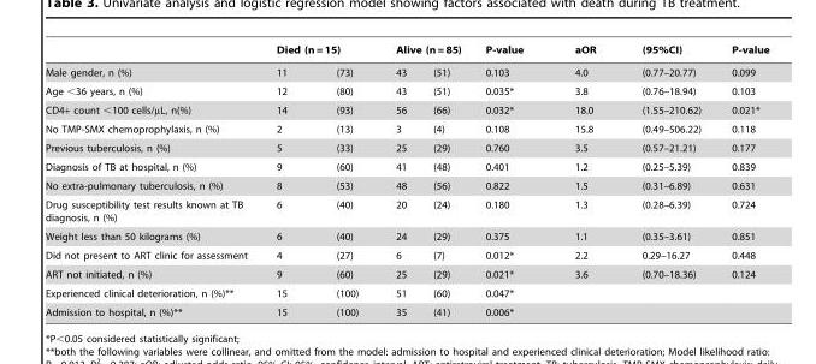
<table><thead><tr><td rowspan="2">Male gender, n (%)</td><td colspan="2">Died (n = 15)</td><td colspan="2">Alive (n = 85)</td><td rowspan="2">P-value 0.103</td><td rowspan="2">aOR 4.0</td><td rowspan="2">(95%CI) (0.77–20.77)</td><td rowspan="2">P-value 0.099</td></tr><tr><td>11</td><td>(73)</td><td>43</td><td>(51)</td></tr></thead><tbody><tr><td>Age &lt;36 years, n (%)</td><td>12</td><td>(80)</td><td>43</td><td>(51)</td><td>0.035*</td><td>3.8</td><td>(0.76–18.94)</td><td>0.103</td></tr><tr><td>CD4+ count &lt;100 cells/µL, n(%)</td><td>14</td><td>(93)</td><td>56</td><td>(66)</td><td>0.032*</td><td>18.0</td><td>(1.55–210.62)</td><td>0.021*</td></tr><tr><td>No TMP-SMX chemoprophylaxis, n (%)</td><td>2</td><td>(13)</td><td>3</td><td>(4)</td><td>0.108</td><td>15.8</td><td>(0.49–506.22)</td><td>0.118</td></tr><tr><td>Previous tuberculosis, n (%)</td><td>5</td><td>(33)</td><td>25</td><td>(29)</td><td>0.760</td><td>3.5</td><td>(0.57–21.21)</td><td>0.177</td></tr><tr><td>Diagnosis of TB at hospital, n (%)</td><td>9</td><td>(60)</td><td>41</td><td>(48)</td><td>0.401</td><td>1.2</td><td>(0.25–5.39)</td><td>0.839</td></tr><tr><td>No extra-pulmonary tuberculosis, n (%)</td><td>8</td><td>(53)</td><td>48</td><td>(56)</td><td>0.822</td><td>1.5</td><td>(0.31–6.89)</td><td>0.631</td></tr><tr><td>Drug susceptibility test results known at TB diagnosis, n (%)</td><td>6</td><td>(40)</td><td>20</td><td>(24)</td><td>0.180</td><td>1.3</td><td>(0.28–6.39)</td><td>0.724</td></tr><tr><td>Weight less than 50 kilograms (%)</td><td>6</td><td>(40)</td><td>24</td><td>(29)</td><td>0.375</td><td>1.1</td><td>(0.35–3.61)</td><td>0.851</td></tr><tr><td>Did not present to ART clinic for assessment</td><td>4</td><td>(27)</td><td>6</td><td>(7)</td><td>0.012*</td><td>2.2</td><td>0.29–16.27</td><td>0.448</td></tr><tr><td>ART not initiated, n (%)</td><td>9</td><td>(60)</td><td>25</td><td>(29)</td><td>0.021*</td><td>3.6</td><td>(0.70–18.36)</td><td>0.124</td></tr><tr><td>Experienced clinical deterioration, n (%)**</td><td>15</td><td>(100)</td><td>51</td><td>(60)</td><td>0.047*</td><td></td><td></td><td></td></tr><tr><td>Admission to hospital, n (%)**</td><td>15</td><td>(100)</td><td>35</td><td>(41)</td><td>0.006*</td><td></td><td></td><td></td></tr></tbody></table>